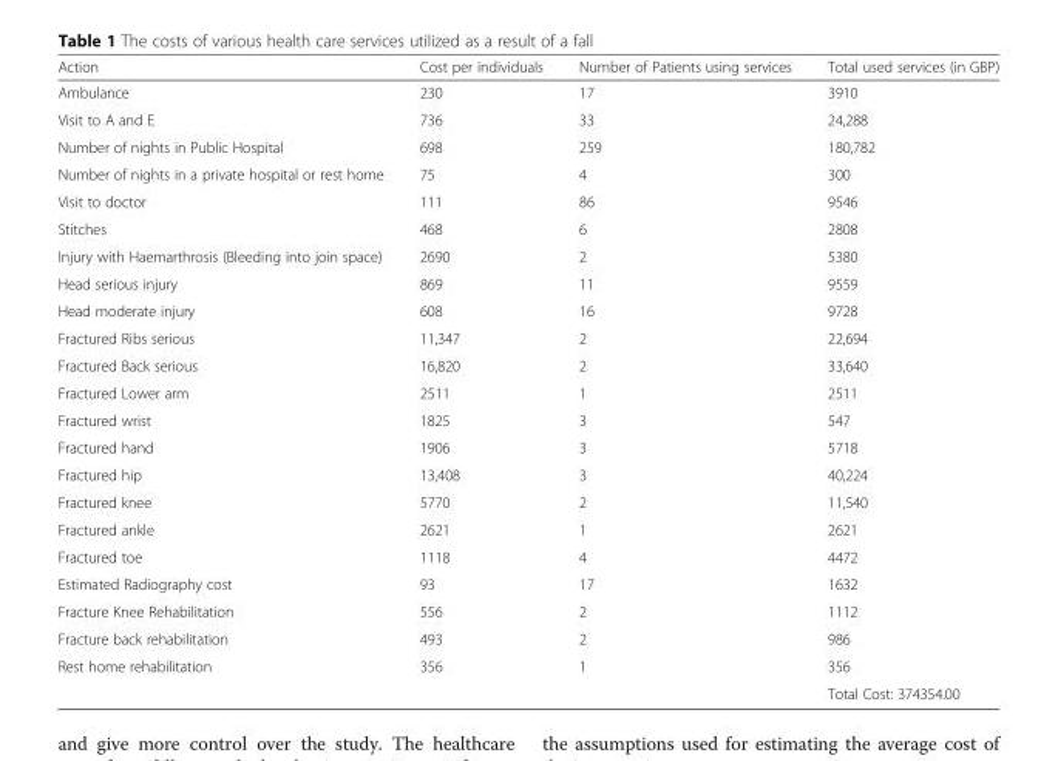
<table><thead><tr><td>Action</td><td>Cost per individuals</td><td>Number of Patients using services</td><td>Total used services (in GBP)</td></tr></thead><tbody><tr><td>Ambulance</td><td>230</td><td>17</td><td>3910</td></tr><tr><td>Visit to A and E</td><td>736</td><td>33</td><td>24,288</td></tr><tr><td>Number of nights in Public Hospital</td><td>698</td><td>259</td><td>180,782</td></tr><tr><td>Number of nights in a private hospital or rest home</td><td>75</td><td>4</td><td>300</td></tr><tr><td>Visit to doctor</td><td>111</td><td>86</td><td>9546</td></tr><tr><td>Stitches</td><td>468</td><td>6</td><td>2808</td></tr><tr><td>Injury with Haemarthrosis (Bleeding into join space)</td><td>2690</td><td>2</td><td>5380</td></tr><tr><td>Head serious injury</td><td>869</td><td>11</td><td>9559</td></tr><tr><td>Head moderate injury</td><td>608</td><td>16</td><td>9728</td></tr><tr><td>Fractured Ribs serious</td><td>11,347</td><td>2</td><td>22,694</td></tr><tr><td>Fractured Back serious</td><td>16,820</td><td>2</td><td>33,640</td></tr><tr><td>Fractured Lower arm</td><td>2511</td><td>1</td><td>2511</td></tr><tr><td>Fractured wrist</td><td>1825</td><td>3</td><td>547</td></tr><tr><td>Fractured hand</td><td>1906</td><td>3</td><td>5718</td></tr><tr><td>Fractured hip</td><td>13,408</td><td>3</td><td>40,224</td></tr><tr><td>Fractured knee</td><td>5770</td><td>2</td><td>11,540</td></tr><tr><td>Fractured ankle</td><td>2621</td><td>1</td><td>2621</td></tr><tr><td>Fractured toe</td><td>1118</td><td>4</td><td>4472</td></tr><tr><td>Estimated Radiography cost</td><td>93</td><td>17</td><td>1632</td></tr><tr><td>Fracture Knee Rehabilitation</td><td>556</td><td>2</td><td>1112</td></tr><tr><td>Fracture back rehabilitation</td><td>493</td><td>2</td><td>986</td></tr><tr><td rowspan="2">Rest home rehabilitation</td><td>356</td><td>1</td><td>356</td></tr><tr><td></td><td></td><td>Total Cost: 374354.00</td></tr></tbody></table>